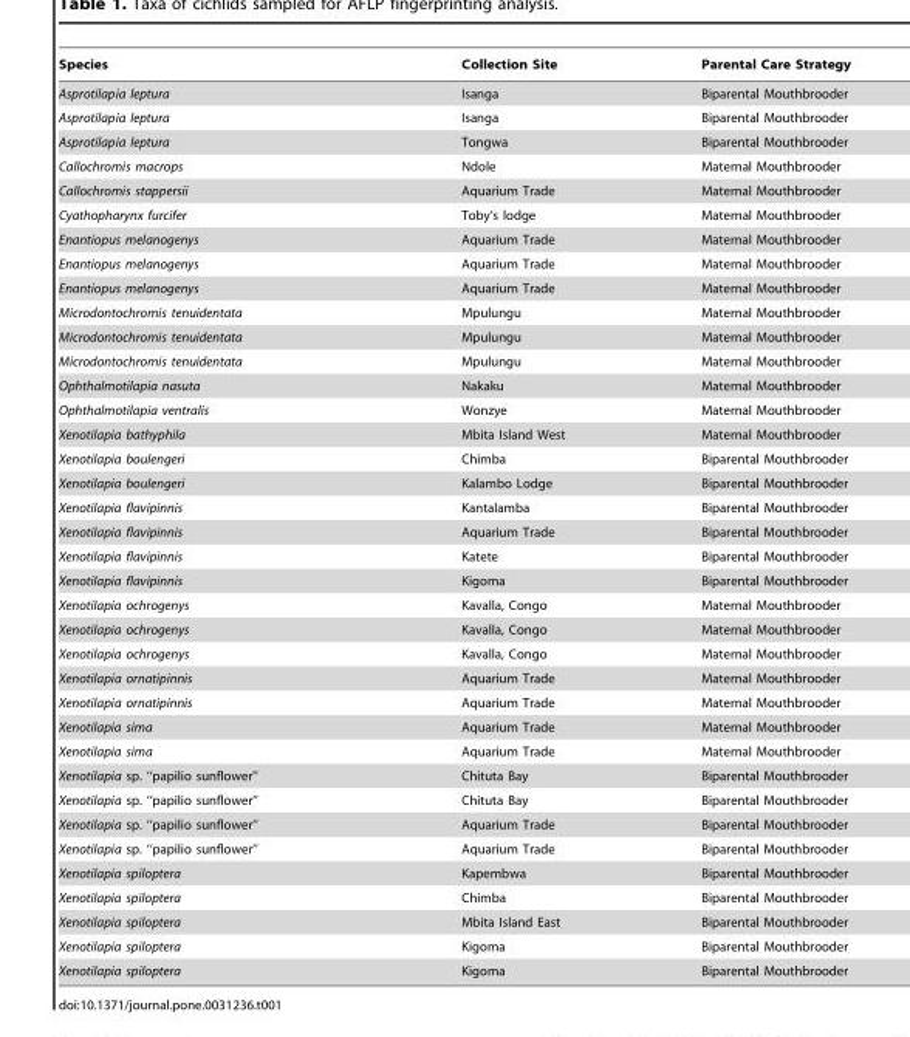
<table><thead><tr><td>Species</td><td>Collection Site</td><td>Parental Care Strategy</td></tr></thead><tbody><tr><td>Asprotilapia leptura</td><td>Isanga</td><td>Biparental Mouthbrooder</td></tr><tr><td>Asprotilapia leptura</td><td>Isanga</td><td>Biparental Mouthbrooder</td></tr><tr><td>Asprotilapia leptura</td><td>Tongwa</td><td>Biparental Mouthbrooder</td></tr><tr><td>Callochromis macrops</td><td>Ndole</td><td>Maternal Mouthbrooder</td></tr><tr><td>Callochromis stappersii</td><td>Aquarium Trade</td><td>Maternal Mouthbrooder</td></tr><tr><td>Cyathopharynx furcifer</td><td>Toby’s lodge</td><td>Maternal Mouthbrooder</td></tr><tr><td>Enantiopus melanogenys</td><td>Aquarium Trade</td><td>Maternal Mouthbrooder</td></tr><tr><td>Enantiopus melanogenys</td><td>Aquarium Trade</td><td>Maternal Mouthbrooder</td></tr><tr><td>Enantiopus melanogenys</td><td>Aquarium Trade</td><td>Maternal Mouthbrooder</td></tr><tr><td>Microdontochromis tenuidentata</td><td>Mpulungu</td><td>Maternal Mouthbrooder</td></tr><tr><td>Microdontochromis tenuidentata</td><td>Mpulungu</td><td>Maternal Mouthbrooder</td></tr><tr><td>Microdontochromis tenuidentata</td><td>Mpulungu</td><td>Maternal Mouthbrooder</td></tr><tr><td>Ophthalmotilapia nasuta</td><td>Nakaku</td><td>Maternal Mouthbrooder</td></tr><tr><td>Ophthalmotilapia ventralis</td><td>Wonzye</td><td>Maternal Mouthbrooder</td></tr><tr><td>Xenotilapia bathyphila</td><td>Mbita Island West</td><td>Maternal Mouthbrooder</td></tr><tr><td>Xenotilapia boulengeri</td><td>Chimba</td><td>Biparental Mouthbrooder</td></tr><tr><td>Xenotilapia boulengeri</td><td>Kalambo Lodge</td><td>Biparental Mouthbrooder</td></tr><tr><td>Xenotilapia flavipinnis</td><td>Kantalamba</td><td>Biparental Mouthbrooder</td></tr><tr><td>Xenotilapia flavipinnis</td><td>Aquarium Trade</td><td>Biparental Mouthbrooder</td></tr><tr><td>Xenotilapia flavipinnis</td><td>Katete</td><td>Biparental Mouthbrooder</td></tr><tr><td>Xenotilapia flavipinnis</td><td>Kigoma</td><td>Biparental Mouthbrooder</td></tr><tr><td>Xenotilapia ochrogenys</td><td>Kavalla, Congo</td><td>Maternal Mouthbrooder</td></tr><tr><td>Xenotilapia ochrogenys</td><td>Kavalla, Congo</td><td>Maternal Mouthbrooder</td></tr><tr><td>Xenotilapia ochrogenys</td><td>Kavalla, Congo</td><td>Maternal Mouthbrooder</td></tr><tr><td>Xenotilapia ornatipinnis</td><td>Aquarium Trade</td><td>Maternal Mouthbrooder</td></tr><tr><td>Xenotilapia ornatipinnis</td><td>Aquarium Trade</td><td>Maternal Mouthbrooder</td></tr><tr><td>Xenotilapia sima</td><td>Aquarium Trade</td><td>Maternal Mouthbrooder</td></tr><tr><td>Xenotilapia sima</td><td>Aquarium Trade</td><td>Maternal Mouthbrooder</td></tr><tr><td>Xenotilapia sp. ‘‘papilio sunflower’’</td><td>Chituta Bay</td><td>Biparental Mouthbrooder</td></tr><tr><td>Xenotilapia sp. ‘‘papilio sunflower’’</td><td>Chituta Bay</td><td>Biparental Mouthbrooder</td></tr><tr><td>Xenotilapia sp. ‘‘papilio sunflower’’</td><td>Aquarium Trade</td><td>Biparental Mouthbrooder</td></tr><tr><td>Xenotilapia sp. ‘‘papilio sunflower’’</td><td>Aquarium Trade</td><td>Biparental Mouthbrooder</td></tr><tr><td>Xenotilapia spiloptera</td><td>Kapembwa</td><td>Biparental Mouthbrooder</td></tr><tr><td>Xenotilapia spiloptera</td><td>Chimba</td><td>Biparental Mouthbrooder</td></tr><tr><td>Xenotilapia spiloptera</td><td>Mbita Island East</td><td>Biparental Mouthbrooder</td></tr><tr><td>Xenotilapia spiloptera</td><td>Kigoma</td><td>Biparental Mouthbrooder</td></tr><tr><td>Xenotilapia spiloptera</td><td>Kigoma</td><td>Biparental Mouthbrooder</td></tr></tbody></table>